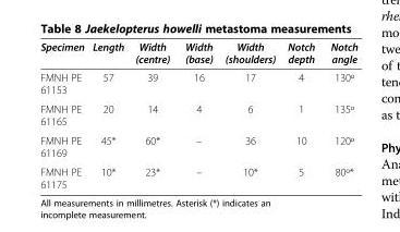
<table><thead><tr><td>Specimen</td><td>Length</td><td>Width (centre)</td><td>Width (base)</td><td>Width (shoulders)</td><td>Notch depth</td><td>Notch angle</td></tr></thead><tbody><tr><td>FMNH PE 61153</td><td>57</td><td>39</td><td>16</td><td>17</td><td>4</td><td>130º</td></tr><tr><td>FMNH PE 61165</td><td>20</td><td>14</td><td>4</td><td>6</td><td>1</td><td>135º</td></tr><tr><td>FMNH PE 61169</td><td>45*</td><td>60*</td><td>–</td><td>36</td><td>10</td><td>120º</td></tr><tr><td>FMNH PE 61175</td><td>10*</td><td>23*</td><td>–</td><td>10*</td><td>5</td><td>80º*</td></tr></tbody></table>